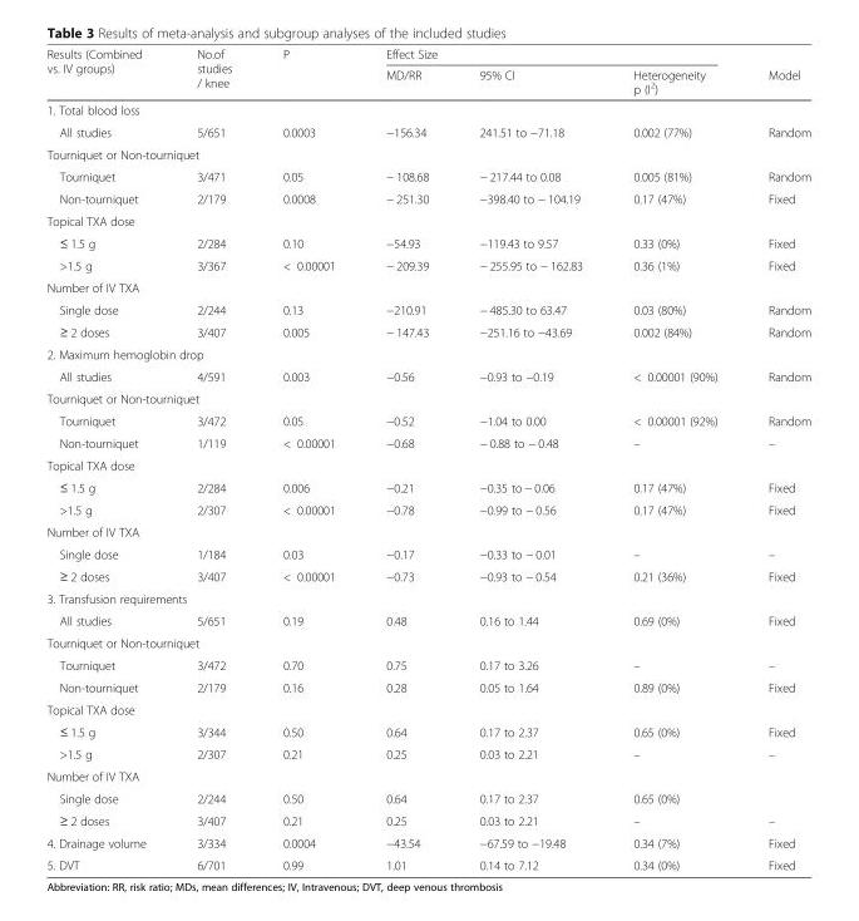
<table><thead><tr><td rowspan="2">Results (Combined vs. IV groups)</td><td rowspan="2">No.of studies / knee</td><td rowspan="2">P</td><td colspan="3">Effect Size</td><td rowspan="2">Model</td></tr><tr><td>MD/RR</td><td>95% CI</td><td>Heterogeneity p (I<sup>2</sup>)</td></tr></thead><tbody><tr><td colspan="7">1. Total blood loss</td></tr><tr><td>All studies</td><td>5/651</td><td>0.0003</td><td>−156.34</td><td>241.51 to −71.18</td><td>0.002 (77%)</td><td>Random</td></tr><tr><td colspan="7">Tourniquet or Non-tourniquet</td></tr><tr><td>Tourniquet</td><td>3/471</td><td>0.05</td><td>− 108.68</td><td>− 217.44 to 0.08</td><td>0.005 (81%)</td><td>Random</td></tr><tr><td>Non-tourniquet</td><td>2/179</td><td>0.0008</td><td>− 251.30</td><td>−398.40 to − 104.19</td><td>0.17 (47%)</td><td>Fixed</td></tr><tr><td colspan="7">Topical TXA dose</td></tr><tr><td>≤ 1.5 g</td><td>2/284</td><td>0.10</td><td>−54.93</td><td>−119.43 to 9.57</td><td>0.33 (0%)</td><td>Fixed</td></tr><tr><td>&gt;1.5 g</td><td>3/367</td><td>&lt; 0.00001</td><td>− 209.39</td><td>− 255.95 to − 162.83</td><td>0.36 (1%)</td><td>Fixed</td></tr><tr><td colspan="7">Number of IV TXA</td></tr><tr><td>Single dose</td><td>2/244</td><td>0.13</td><td>−210.91</td><td>− 485.30 to 63.47</td><td>0.03 (80%)</td><td>Random</td></tr><tr><td>≥ 2 doses</td><td>3/407</td><td>0.005</td><td>− 147.43</td><td>−251.16 to −43.69</td><td>0.002 (84%)</td><td>Random</td></tr><tr><td colspan="7">2. Maximum hemoglobin drop</td></tr><tr><td>All studies</td><td>4/591</td><td>0.003</td><td>−0.56</td><td>−0.93 to −0.19</td><td>&lt; 0.00001 (90%)</td><td>Random</td></tr><tr><td colspan="7">Tourniquet or Non-tourniquet</td></tr><tr><td>Tourniquet</td><td>3/472</td><td>0.05</td><td>−0.52</td><td>−1.04 to 0.00</td><td>&lt; 0.00001 (92%)</td><td>Random</td></tr><tr><td>Non-tourniquet</td><td>1/119</td><td>&lt; 0.00001</td><td>−0.68</td><td>− 0.88 to − 0.48</td><td>–</td><td>–</td></tr><tr><td colspan="7">Topical TXA dose</td></tr><tr><td>≤ 1.5 g</td><td>2/284</td><td>0.006</td><td>−0.21</td><td>−0.35 to − 0.06</td><td>0.17 (47%)</td><td>Fixed</td></tr><tr><td>&gt;1.5 g</td><td>2/307</td><td>&lt; 0.00001</td><td>−0.78</td><td>−0.99 to − 0.56</td><td>0.17 (47%)</td><td>Fixed</td></tr><tr><td colspan="7">Number of IV TXA</td></tr><tr><td>Single dose</td><td>1/184</td><td>0.03</td><td>−0.17</td><td>−0.33 to − 0.01</td><td>–</td><td>–</td></tr><tr><td>≥ 2 doses</td><td>3/407</td><td>&lt; 0.00001</td><td>−0.73</td><td>−0.93 to − 0.54</td><td>0.21 (36%)</td><td>Fixed</td></tr><tr><td colspan="7">3. Transfusion requirements</td></tr><tr><td>All studies</td><td>5/651</td><td>0.19</td><td>0.48</td><td>0.16 to 1.44</td><td>0.69 (0%)</td><td>Fixed</td></tr><tr><td colspan="7">Tourniquet or Non-tourniquet</td></tr><tr><td>Tourniquet</td><td>3/472</td><td>0.70</td><td>0.75</td><td>0.17 to 3.26</td><td>–</td><td>–</td></tr><tr><td>Non-tourniquet</td><td>2/179</td><td>0.16</td><td>0.28</td><td>0.05 to 1.64</td><td>0.89 (0%)</td><td>Fixed</td></tr><tr><td colspan="7">Topical TXA dose</td></tr><tr><td>≤ 1.5 g</td><td>3/344</td><td>0.50</td><td>0.64</td><td>0.17 to 2.37</td><td>0.65 (0%)</td><td>Fixed</td></tr><tr><td>&gt;1.5 g</td><td>2/307</td><td>0.21</td><td>0.25</td><td>0.03 to 2.21</td><td>–</td><td>–</td></tr><tr><td colspan="7">Number of IV TXA</td></tr><tr><td>Single dose</td><td>2/244</td><td>0.50</td><td>0.64</td><td>0.17 to 2.37</td><td>0.65 (0%)</td><td></td></tr><tr><td>≥ 2 doses</td><td>3/407</td><td>0.21</td><td>0.25</td><td>0.03 to 2.21</td><td>–</td><td>–</td></tr><tr><td>4. Drainage volume</td><td>3/334</td><td>0.0004</td><td>−43.54</td><td>−67.59 to −19.48</td><td>0.34 (7%)</td><td>Fixed</td></tr><tr><td>5. DVT</td><td>6/701</td><td>0.99</td><td>1.01</td><td>0.14 to 7.12</td><td>0.34 (0%)</td><td>Fixed</td></tr></tbody></table>